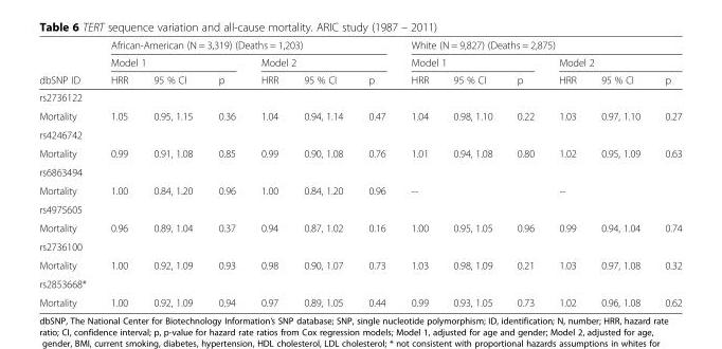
<table><thead><tr><td rowspan="3">dbSNP ID</td><td colspan="6">African-American (N = 3,319) (Deaths = 1,203)</td><td colspan="6">White (N = 9,827) (Deaths = 2,875)</td></tr><tr><td colspan="3">Model 1</td><td colspan="3">Model 2</td><td colspan="3">Model 1</td><td colspan="3">Model 2</td></tr><tr><td>HRR</td><td>95 % CI</td><td>p</td><td>HRR</td><td>95 % CI</td><td>p</td><td>HRR</td><td>95 % CI</td><td>p</td><td>HRR</td><td>95 % CI</td><td>p</td></tr></thead><tbody><tr><td colspan="13">rs2736122</td></tr><tr><td>Mortality</td><td>1.05</td><td>0.95, 1.15</td><td>0.36</td><td>1.04</td><td>0.94, 1.14</td><td>0.47</td><td>1.04</td><td>0.98, 1.10</td><td>0.22</td><td>1.03</td><td>0.97, 1.10</td><td>0.27</td></tr><tr><td colspan="13">rs4246742</td></tr><tr><td>Mortality</td><td>0.99</td><td>0.91, 1.08</td><td>0.85</td><td>0.99</td><td>0.90, 1.08</td><td>0.76</td><td>1.01</td><td>0.94, 1.08</td><td>0.80</td><td>1.02</td><td>0.95, 1.09</td><td>0.63</td></tr><tr><td colspan="13">rs6863494</td></tr><tr><td>Mortality</td><td>1.00</td><td>0.84, 1.20</td><td>0.96</td><td>1.00</td><td>0.84, 1.20</td><td>0.96</td><td>--</td><td></td><td></td><td>--</td><td></td><td></td></tr><tr><td colspan="13">rs4975605</td></tr><tr><td>Mortality</td><td>0.96</td><td>0.89, 1.04</td><td>0.37</td><td>0.94</td><td>0.87, 1.02</td><td>0.16</td><td>1.00</td><td>0.95, 1.05</td><td>0.96</td><td>0.99</td><td>0.94, 1.04</td><td>0.74</td></tr><tr><td colspan="13">rs2736100</td></tr><tr><td>Mortality</td><td>1.00</td><td>0.92, 1.09</td><td>0.93</td><td>0.98</td><td>0.90, 1.07</td><td>0.73</td><td>1.03</td><td>0.98, 1.09</td><td>0.21</td><td>1.03</td><td>0.97, 1.08</td><td>0.32</td></tr><tr><td colspan="13">rs2853668*</td></tr><tr><td>Mortality</td><td>1.00</td><td>0.92, 1.09</td><td>0.94</td><td>0.97</td><td>0.89, 1.05</td><td>0.44</td><td>0.99</td><td>0.93, 1.05</td><td>0.73</td><td>1.02</td><td>0.96, 1.08</td><td>0.62</td></tr></tbody></table>